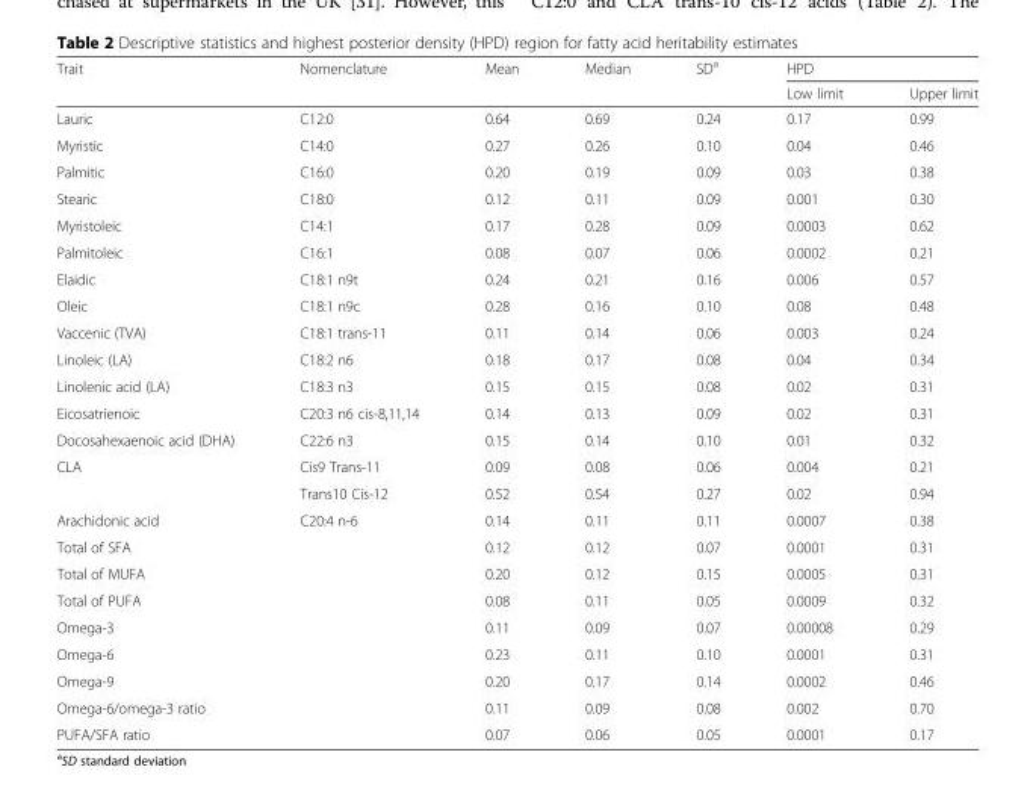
<table><thead><tr><td rowspan="2">Trait</td><td rowspan="2">Nomenclature</td><td rowspan="2">Mean</td><td rowspan="2">Median</td><td rowspan="2">SD<sup>a</sup></td><td colspan="2">HPD</td></tr><tr><td>Low limit</td><td>Upper limit</td></tr></thead><tbody><tr><td>Lauric</td><td>C12:0</td><td>0.64</td><td>0.69</td><td>0.24</td><td>0.17</td><td>0.99</td></tr><tr><td>Myristic</td><td>C14:0</td><td>0.27</td><td>0.26</td><td>0.10</td><td>0.04</td><td>0.46</td></tr><tr><td>Palmitic</td><td>C16:0</td><td>0.20</td><td>0.19</td><td>0.09</td><td>0.03</td><td>0.38</td></tr><tr><td>Stearic</td><td>C18:0</td><td>0.12</td><td>0.11</td><td>0.09</td><td>0.001</td><td>0.30</td></tr><tr><td>Myristoleic</td><td>C14:1</td><td>0.17</td><td>0.28</td><td>0.09</td><td>0.0003</td><td>0.62</td></tr><tr><td>Palmitoleic</td><td>C16:1</td><td>0.08</td><td>0.07</td><td>0.06</td><td>0.0002</td><td>0.21</td></tr><tr><td>Elaidic</td><td>C18:1 n9t</td><td>0.24</td><td>0.21</td><td>0.16</td><td>0.006</td><td>0.57</td></tr><tr><td>Oleic</td><td>C18:1 n9c</td><td>0.28</td><td>0.16</td><td>0.10</td><td>0.08</td><td>0.48</td></tr><tr><td>Vaccenic (TVA)</td><td>C18:1 trans-11</td><td>0.11</td><td>0.14</td><td>0.06</td><td>0.003</td><td>0.24</td></tr><tr><td>Linoleic (LA)</td><td>C18:2 n6</td><td>0.18</td><td>0.17</td><td>0.08</td><td>0.04</td><td>0.34</td></tr><tr><td>Linolenic acid (LA)</td><td>C18:3 n3</td><td>0.15</td><td>0.15</td><td>0.08</td><td>0.02</td><td>0.31</td></tr><tr><td>Eicosatrienoic</td><td>C20:3 n6 cis-8,11,14</td><td>0.14</td><td>0.13</td><td>0.09</td><td>0.02</td><td>0.31</td></tr><tr><td>Docosahexaenoic acid (DHA)</td><td>C22:6 n3</td><td>0.15</td><td>0.14</td><td>0.10</td><td>0.01</td><td>0.32</td></tr><tr><td rowspan="2">CLA</td><td>Cis9 Trans-11</td><td>0.09</td><td>0.08</td><td>0.06</td><td>0.004</td><td>0.21</td></tr><tr><td>Trans10 Cis-12</td><td>0.52</td><td>0.54</td><td>0.27</td><td>0.02</td><td>0.94</td></tr><tr><td>Arachidonic acid</td><td>C20:4 n-6</td><td>0.14</td><td>0.11</td><td>0.11</td><td>0.0007</td><td>0.38</td></tr><tr><td colspan="2">Total of SFA</td><td>0.12</td><td>0.12</td><td>0.07</td><td>0.0001</td><td>0.31</td></tr><tr><td colspan="2">Total of MUFA</td><td>0.20</td><td>0.12</td><td>0.15</td><td>0.0005</td><td>0.31</td></tr><tr><td colspan="2">Total of PUFA</td><td>0.08</td><td>0.11</td><td>0.05</td><td>0.0009</td><td>0.32</td></tr><tr><td colspan="2">Omega-3</td><td>0.11</td><td>0.09</td><td>0.07</td><td>0.00008</td><td>0.29</td></tr><tr><td colspan="2">Omega-6</td><td>0.23</td><td>0.11</td><td>0.10</td><td>0.0001</td><td>0.31</td></tr><tr><td colspan="2">Omega-9</td><td>0.20</td><td>0.17</td><td>0.14</td><td>0.0002</td><td>0.46</td></tr><tr><td colspan="2">Omega-6/omega-3 ratio</td><td>0.11</td><td>0.09</td><td>0.08</td><td>0.002</td><td>0.70</td></tr><tr><td colspan="2">PUFA/SFA ratio</td><td>0.07</td><td>0.06</td><td>0.05</td><td>0.0001</td><td>0.17</td></tr></tbody></table>